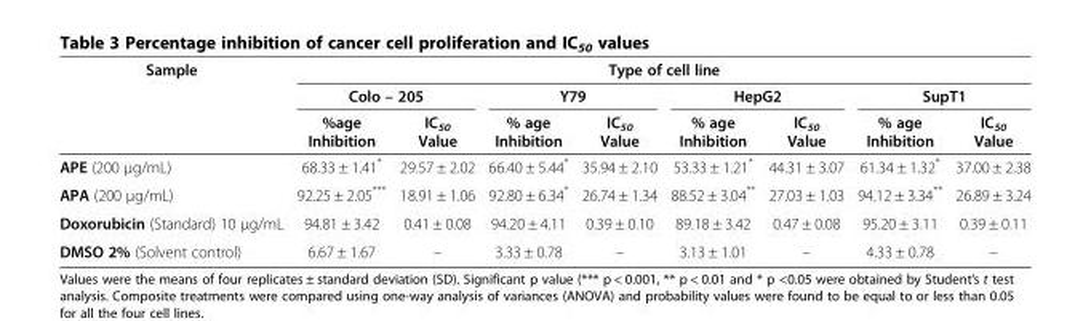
<table><thead><tr><td rowspan="3">Sample</td><td colspan="8">Type of cell line</td></tr><tr><td colspan="2">Colo – 205</td><td colspan="2">Y79</td><td colspan="2">HepG2</td><td colspan="2">SupT1</td></tr><tr><td>%age Inhibition</td><td>IC<sub>50</sub> Value</td><td>% age Inhibition</td><td>IC<sub>50</sub> Value</td><td>% age Inhibition</td><td>IC<sub>50</sub> Value</td><td>% age Inhibition</td><td>IC<sub>50</sub> Value</td></tr></thead><tbody><tr><td>APE (200 μg/mL)</td><td>68.33 ± 1.41*</td><td>29.57 ± 2.02</td><td>66.40 ± 5.44*</td><td>35.94 ± 2.10</td><td>53.33 ± 1.21*</td><td>44.31 ± 3.07</td><td>61.34 ± 1.32*</td><td>37.00 ± 2.38</td></tr><tr><td>APA (200 μg/mL)</td><td>92.25 ± 2.05***</td><td>18.91 ± 1.06</td><td>92.80 ± 6.34*</td><td>26.74 ± 1.34</td><td>88.52 ± 3.04**</td><td>27.03 ± 1.03</td><td>94.12 ± 3.34**</td><td>26.89 ± 3.24</td></tr><tr><td>Doxorubicin (Standard) 10 μg/mL</td><td>94.81 ± 3.42</td><td>0.41 ± 0.08</td><td>94.20 ± 4.11</td><td>0.39 ± 0.10</td><td>89.18 ± 3.42</td><td>0.47 ± 0.08</td><td>95.20 ± 3.11</td><td>0.39 ± 0.11</td></tr><tr><td>DMSO 2% (Solvent control)</td><td>6.67 ± 1.67</td><td>–</td><td>3.33 ± 0.78</td><td>–</td><td>3.13 ± 1.01</td><td>–</td><td>4.33 ± 0.78</td><td>–</td></tr></tbody></table>